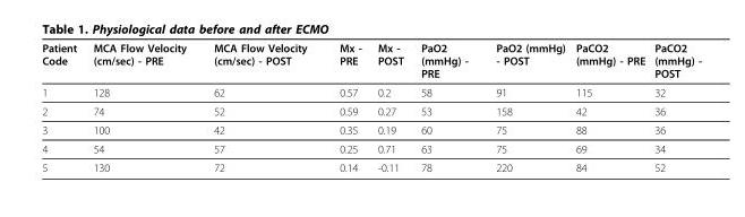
<table><thead><tr><td>Patient Code</td><td>MCA Flow Velocity (cm/sec) - PRE</td><td>MCA Flow Velocity (cm/sec) - POST</td><td>Mx - PRE</td><td>Mx - POST</td><td>PaO2 (mmHg) - PRE</td><td>PaO2 (mmHg) - POST</td><td>PaCO2 (mmHg) - PRE</td><td>PaCO2 (mmHg) - POST</td></tr></thead><tbody><tr><td>1</td><td>128</td><td>62</td><td>0.57</td><td>0.2</td><td>58</td><td>91</td><td>115</td><td>32</td></tr><tr><td>2</td><td>74</td><td>52</td><td>0.59</td><td>0.27</td><td>53</td><td>158</td><td>42</td><td>36</td></tr><tr><td>3</td><td>100</td><td>42</td><td>0.35</td><td>0.19</td><td>60</td><td>75</td><td>88</td><td>36</td></tr><tr><td>4</td><td>54</td><td>57</td><td>0.25</td><td>0.71</td><td>63</td><td>75</td><td>69</td><td>34</td></tr><tr><td>5</td><td>130</td><td>72</td><td>0.14</td><td>-0.11</td><td>78</td><td>220</td><td>84</td><td>52</td></tr></tbody></table>